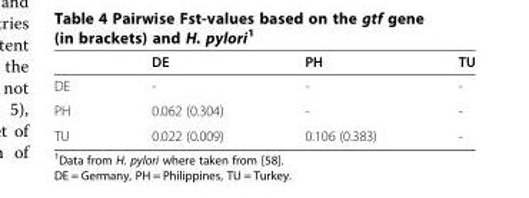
<table><thead><tr><td></td><td>DE</td><td>PH</td><td>TU</td></tr></thead><tbody><tr><td>DE</td><td>-</td><td>-</td><td>-</td></tr><tr><td>PH</td><td>0.062 (0.304)</td><td>-</td><td>-</td></tr><tr><td>TU</td><td>0.022 (0.009)</td><td>0.106 (0.383)</td><td>-</td></tr></tbody></table>